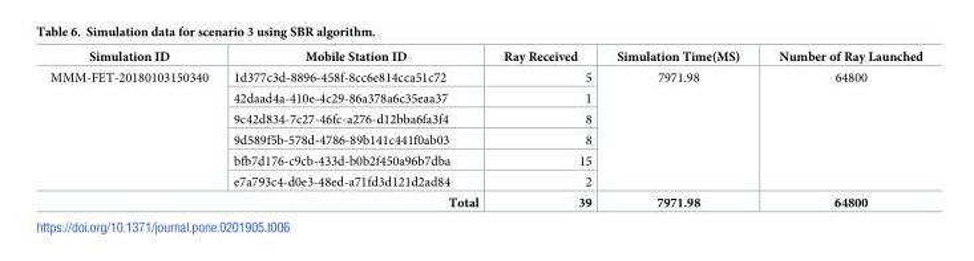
<table><thead><tr><td>Simulation ID</td><td>Mobile Station ID</td><td>Ray Received</td><td>Simulation Time(MS)</td><td>Number of Ray Launched</td></tr></thead><tbody><tr><td rowspan="6">MMM-FET-20180103150340</td><td>1d377c3d-8896-458f-8cc6e814cca51c72</td><td>5</td><td rowspan="6">7971.98</td><td rowspan="6">64800</td></tr><tr><td>42daad4a-410e-4c29-86a378a6c35eaa37</td><td>1</td></tr><tr><td>9c42d834-7c27-46fc-a276-d12bba6fa3f4</td><td>8</td></tr><tr><td>9d589f5b-578d-4786-89b141c441f0ab03</td><td>8</td></tr><tr><td>bfb7d176-c9cb-433d-b0b2f450a96b7dba</td><td>15</td></tr><tr><td>e7a793c4-d0e3-48ed-a71fd3d121d2ad84</td><td>2</td></tr><tr><td colspan="2">Total</td><td>39</td><td>7971.98</td><td>64800</td></tr></tbody></table>